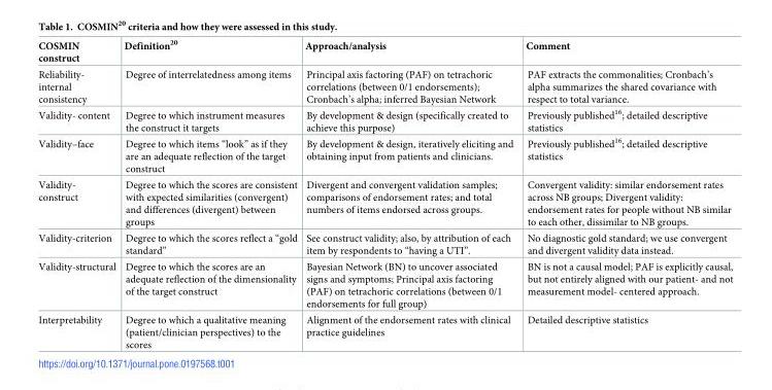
<table><thead><tr><td>COSMIN construct</td><td>Definition<sup>20</sup></td><td>Approach/analysis</td><td>Comment</td></tr></thead><tbody><tr><td>Reliability- internal consistency</td><td>Degree of interrelatedness among items</td><td>Principal axis factoring (PAF) on tetrachoric correlations (between 0/1 endorsements); Cronbach’s alpha; inferred Bayesian Network</td><td>PAF extracts the commonalities; Cronbach’s alpha summarizes the shared covariance with respect to total variance.</td></tr><tr><td>Validity- content</td><td>Degree to which instrument measures the construct it targets</td><td>By development &amp; design (specifically created to achieve this purpose)</td><td>Previously published<sup>16</sup>; detailed descriptive statistics</td></tr><tr><td>Validity–face</td><td>Degree to which items “look” as if they are an adequate reflection of the target construct</td><td>By development &amp; design, iteratively eliciting and obtaining input from patients and clinicians.</td><td>Previously published<sup>16</sup>; detailed descriptive statistics</td></tr><tr><td>Validity- construct</td><td>Degree to which the scores are consistent with expected similarities (convergent) and differences (divergent) between groups</td><td>Divergent and convergent validation samples; comparisons of endorsement rates; and total numbers of items endorsed across groups.</td><td>Convergent validity: similar endorsement rates across NB groups; Divergent validity: endorsement rates for people without NB similar to each other, dissimilar to NB groups.</td></tr><tr><td>Validity-criterion</td><td>Degree to which the scores reflect a “gold standard”</td><td>See construct validity; also, by attribution of each item by respondents to “having a UTI”.</td><td>No diagnostic gold standard; we use convergent and divergent validity data instead.</td></tr><tr><td>Validity-structural</td><td>Degree to which the scores are an adequate reflection of the dimensionality of the target construct</td><td>Bayesian Network (BN) to uncover associated signs and symptoms; Principal axis factoring (PAF) on tetrachoric correlations (between 0/1 endorsements for full group)</td><td>BN is not a causal model; PAF is explicitly causal, but not entirely aligned with our patient- and not measurement model- centered approach.</td></tr><tr><td>Interpretability</td><td>Degree to which a qualitative meaning (patient/clinician perspectives) to the scores</td><td>Alignment of the endorsement rates with clinical practice guidelines</td><td>Detailed descriptive statistics</td></tr></tbody></table>